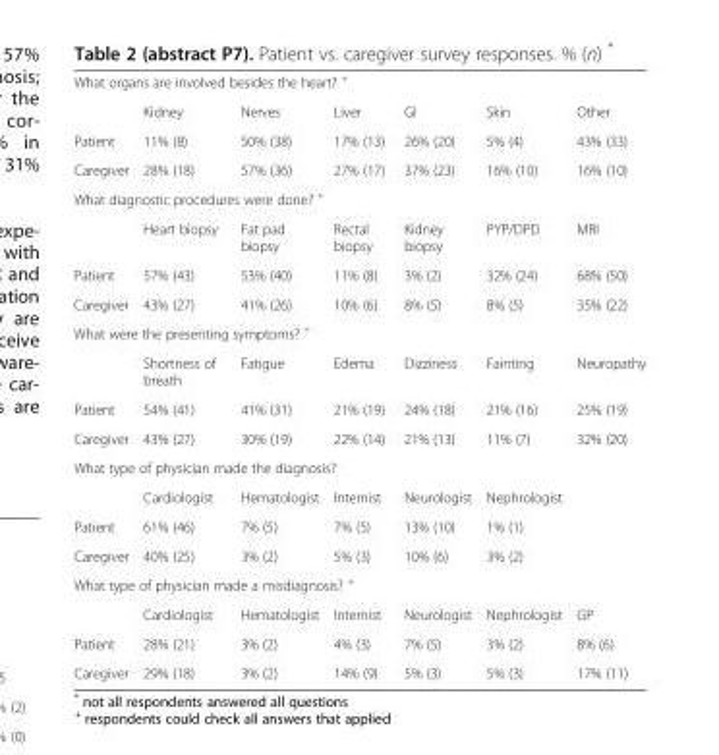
<table><tbody><tr><td colspan="7">What organs are involved besides the heart? <sup>+</sup></td></tr><tr><td></td><td>Kidney</td><td>Nerves</td><td>Liver</td><td>GI</td><td>Skin</td><td>Other</td></tr><tr><td>Patient</td><td>11% (8)</td><td>50% (38)</td><td>17% (13)</td><td>26% (20)</td><td>5% (4)</td><td>43% (33)</td></tr><tr><td>Caregiver</td><td>28% (18)</td><td>57% (36)</td><td>27% (17)</td><td>37% (23)</td><td>16% (10)</td><td>16% (10)</td></tr><tr><td colspan="7">What diagnostic procedures were done? <sup>+</sup></td></tr><tr><td></td><td>Heart biopsy</td><td>Fat pad biopsy</td><td>Rectal biopsy</td><td>Kidney biopsy</td><td>PYP/DPD</td><td>MRI</td></tr><tr><td>Patient</td><td>57% (43)</td><td>53% (40)</td><td>11% (8)</td><td>3% (2)</td><td>32% (24)</td><td>68% (50)</td></tr><tr><td>Caregiver</td><td>43% (27)</td><td>41% (26)</td><td>10% (6)</td><td>8% (5)</td><td>8% (5)</td><td>35% (22)</td></tr><tr><td colspan="7">What were the presenting symptoms? <sup>+</sup></td></tr><tr><td></td><td>Shortness of breath</td><td>Fatigue</td><td>Edema</td><td>Dizziness</td><td>Fainting</td><td>Neuropathy</td></tr><tr><td>Patient</td><td>54% (41)</td><td>41% (31)</td><td>21% (19)</td><td>24% (18)</td><td>21% (16)</td><td>25% (19)</td></tr><tr><td>Caregiver</td><td>43% (27)</td><td>30% (19)</td><td>22% (14)</td><td>21% (13)</td><td>11% (7)</td><td>32% (20)</td></tr><tr><td colspan="7">What type of physician made the diagnosis?</td></tr><tr><td></td><td>Cardiologist</td><td>Hematologist</td><td>Internist</td><td>Neurologist</td><td>Nephrologist</td><td></td></tr><tr><td>Patient</td><td>61% (46)</td><td>7% (5)</td><td>7% (5)</td><td>13% (10)</td><td>1% (1)</td><td></td></tr><tr><td>Caregiver</td><td>40% (25)</td><td>3% (2)</td><td>5% (3)</td><td>10% (6)</td><td>3% (2)</td><td></td></tr><tr><td colspan="7">What type of physician made a misdiagnosis? <sup>+</sup></td></tr><tr><td></td><td>Cardiologist</td><td>Hematologist</td><td>Internist</td><td>Neurologist</td><td>Nephrologist</td><td>GP</td></tr><tr><td>Patient</td><td>28% (21)</td><td>3% (2)</td><td>4% (3)</td><td>7% (5)</td><td>3% (2)</td><td>8% (6)</td></tr><tr><td>Caregiver</td><td>29% (18)</td><td>3% (2)</td><td>14% (9)</td><td>5% (3)</td><td>5% (3)</td><td>17% (11)</td></tr></tbody></table>